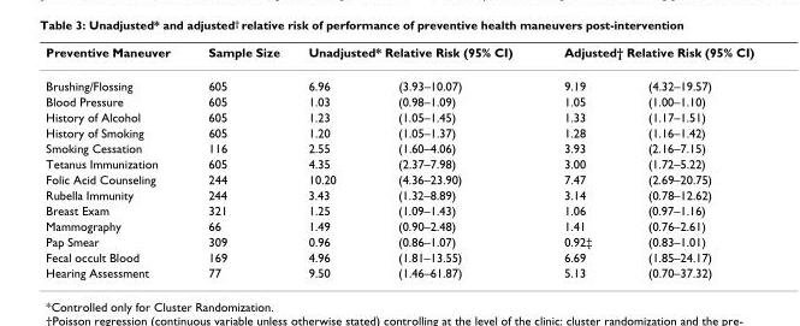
<table><thead><tr><td rowspan="2">Preventive Maneuver Brushing/Flossing</td><td rowspan="2">Sample Size 605</td><td colspan="2">Unadjusted* Relative Risk (95% CI)</td><td colspan="2">Adjusted† Relative Risk (95% CI)</td></tr><tr><td>6.96</td><td>(3.93–10.07)</td><td>9.19</td><td>(4.32–19.57)</td></tr></thead><tbody><tr><td>Blood Pressure</td><td>605</td><td>1.03</td><td>(0.98–1.09)</td><td>1.05</td><td>(1.00–1.10)</td></tr><tr><td>History of Alcohol</td><td>605</td><td>1.23</td><td>(1.05–1.45)</td><td>1.33</td><td>(1.17–1.51)</td></tr><tr><td>History of Smoking</td><td>605</td><td>1.20</td><td>(1.05–1.37)</td><td>1.28</td><td>(1.16–1.42)</td></tr><tr><td>Smoking Cessation</td><td>116</td><td>2.55</td><td>(1.60–4.06)</td><td>3.93</td><td>(2.16–7.15)</td></tr><tr><td>Tetanus Immunization</td><td>605</td><td>4.35</td><td>(2.37–7.98)</td><td>3.00</td><td>(1.72–5.22)</td></tr><tr><td>Folic Acid Counseling</td><td>244</td><td>10.20</td><td>(4.36–23.90)</td><td>7.47</td><td>(2.69–20.75)</td></tr><tr><td>Rubella Immunity</td><td>244</td><td>3.43</td><td>(1.32–8.89)</td><td>3.14</td><td>(0.78–12.62)</td></tr><tr><td>Breast Exam</td><td>321</td><td>1.25</td><td>(1.09–1.43)</td><td>1.06</td><td>(0.97–1.16)</td></tr><tr><td>Mammography</td><td>66</td><td>1.49</td><td>(0.90–2.48)</td><td>1.41</td><td>(0.76–2.61)</td></tr><tr><td>Pap Smear</td><td>309</td><td>0.96</td><td>(0.86–1.07)</td><td>0.92‡</td><td>(0.83–1.01)</td></tr><tr><td>Fecal occult Blood</td><td>169</td><td>4.96</td><td>(1.81–13.55)</td><td>6.69</td><td>(1.85–24.17)</td></tr><tr><td>Hearing Assessment</td><td>77</td><td>9.50</td><td>(1.46–61.87)</td><td>5.13</td><td>(0.70–37.32)</td></tr></tbody></table>